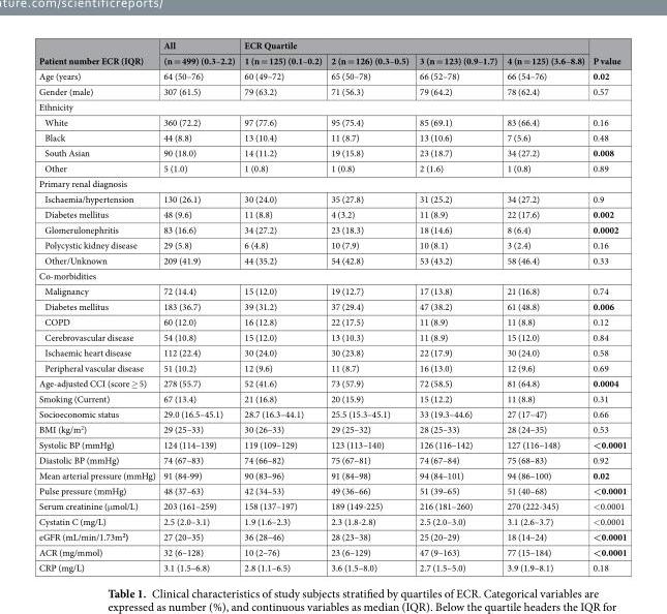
<table><thead><tr><td rowspan="2">Patient number ECR (IQR)</td><td rowspan="2">All (n = 499) (0.3–2.2)</td><td colspan="4">ECR Quartile</td><td rowspan="2">P value</td></tr><tr><td>1 (n = 125) (0.1–0.2)</td><td>2 (n = 126) (0.3–0.5)</td><td>3 (n = 123) (0.9–1.7)</td><td>4 (n = 125) (3.6–8.8)</td></tr></thead><tbody><tr><td>Age (years)</td><td>64 (50–76)</td><td>60 (49–72)</td><td>65 (50–78)</td><td>66 (52–78)</td><td>66 (54–76)</td><td>0.02</td></tr><tr><td>Gender (male)</td><td>307 (61.5)</td><td>79 (63.2)</td><td>71 (56.3)</td><td>79 (64.2)</td><td>78 (62.4)</td><td>0.57</td></tr><tr><td colspan="7">Ethnicity</td></tr><tr><td>White</td><td>360 (72.2)</td><td>97 (77.6)</td><td>95 (75.4)</td><td>85 (69.1)</td><td>83 (66.4)</td><td>0.16</td></tr><tr><td>Black</td><td>44 (8.8)</td><td>13 (10.4)</td><td>11 (8.7)</td><td>13 (10.6)</td><td>7 (5.6)</td><td>0.48</td></tr><tr><td>South Asian</td><td>90 (18.0)</td><td>14 (11.2)</td><td>19 (15.8)</td><td>23 (18.7)</td><td>34 (27.2)</td><td>0.008</td></tr><tr><td>Other</td><td>5 (1.0)</td><td>1 (0.8)</td><td>1 (0.8)</td><td>2 (1.6)</td><td>1 (0.8)</td><td>0.89</td></tr><tr><td colspan="7">Primary renal diagnosis</td></tr><tr><td>Ischaemia/hypertension</td><td>130 (26.1)</td><td>30 (24.0)</td><td>35 (27.8)</td><td>31 (25.2)</td><td>34 (27.2)</td><td>0.9</td></tr><tr><td>Diabetes mellitus</td><td>48 (9.6)</td><td>11 (8.8)</td><td>4 (3.2)</td><td>11 (8.9)</td><td>22 (17.6)</td><td>0.002</td></tr><tr><td>Glomerulonephritis</td><td>83 (16.6)</td><td>34 (27.2)</td><td>23 (18.3)</td><td>18 (14.6)</td><td>8 (6.4)</td><td>0.0002</td></tr><tr><td>Polycystic kidney disease</td><td>29 (5.8)</td><td>6 (4.8)</td><td>10 (7.9)</td><td>10 (8.1)</td><td>3 (2.4)</td><td>0.16</td></tr><tr><td>Other/Unknown</td><td>209 (41.9)</td><td>44 (35.2)</td><td>54 (42.8)</td><td>53 (43.2)</td><td>58 (46.4)</td><td>0.33</td></tr><tr><td colspan="7">Co-morbidities</td></tr><tr><td>Malignancy</td><td>72 (14.4)</td><td>15 (12.0)</td><td>19 (12.7)</td><td>17 (13.8)</td><td>21 (16.8)</td><td>0.74</td></tr><tr><td>Diabetes mellitus</td><td>183 (36.7)</td><td>39 (31.2)</td><td>37 (29.4)</td><td>47 (38.2)</td><td>61 (48.8)</td><td>0.006</td></tr><tr><td>COPD</td><td>60 (12.0)</td><td>16 (12.8)</td><td>22 (17.5)</td><td>11 (8.9)</td><td>11 (8.8)</td><td>0.12</td></tr><tr><td>Cerebrovascular disease</td><td>54 (10.8)</td><td>15 (12.0)</td><td>13 (10.3)</td><td>11 (8.9)</td><td>15 (12.0)</td><td>0.84</td></tr><tr><td>Ischaemic heart disease</td><td>112 (22.4)</td><td>30 (24.0)</td><td>30 (23.8)</td><td>22 (17.9)</td><td>30 (24.0)</td><td>0.58</td></tr><tr><td>Peripheral vascular disease</td><td>51 (10.2)</td><td>12 (9.6)</td><td>11 (8.7)</td><td>16 (13.0)</td><td>12 (9.6)</td><td>0.69</td></tr><tr><td>Age-adjusted CCI (score ≥ 5)</td><td>278 (55.7)</td><td>52 (41.6)</td><td>73 (57.9)</td><td>72 (58.5)</td><td>81 (64.8)</td><td>0.0004</td></tr><tr><td>Smoking (Current)</td><td>67 (13.4)</td><td>21 (16.8)</td><td>20 (15.9)</td><td>15 (12.2)</td><td>11 (8.8)</td><td>0.31</td></tr><tr><td>Socioeconomic status</td><td>29.0 (16.5–45.1)</td><td>28.7 (16.3–44.1)</td><td>25.5 (15.3–45.1)</td><td>33 (19.3–44.6)</td><td>27 (17–47)</td><td>0.66</td></tr><tr><td>BMI (kg/m<sup>2</sup>)</td><td>29 (25–33)</td><td>30 (26–33)</td><td>29 (25–32)</td><td>28 (25–33)</td><td>28 (24–35)</td><td>0.53</td></tr><tr><td>Systolic BP (mmHg)</td><td>124 (114–139)</td><td>119 (109–129)</td><td>123 (113–140)</td><td>126 (116–142)</td><td>127 (116–148)</td><td>&lt;0.0001</td></tr><tr><td>Diastolic BP (mmHg)</td><td>74 (67–83)</td><td>74 (66–82)</td><td>75 (67–81)</td><td>74 (67–84)</td><td>75 (68–83)</td><td>0.92</td></tr><tr><td>Mean arterial pressure (mmHg)</td><td>91 (84-99)</td><td>90 (83–96)</td><td>91 (84–98)</td><td>94 (84–101)</td><td>94 (86–100)</td><td>0.02</td></tr><tr><td>Pulse pressure (mmHg)</td><td>48 (37–63)</td><td>42 (34–53)</td><td>49 (36–66)</td><td>51 (39–65)</td><td>51 (40–68)</td><td>&lt;0.0001</td></tr><tr><td>Serum creatinine (μmol/L)</td><td>203 (161–259)</td><td>158 (137–197)</td><td>189 (149-225)</td><td>216 (181–260)</td><td>270 (222-345)</td><td>&lt;0.0001</td></tr><tr><td>Cystatin C (mg/L)</td><td>2.5 (2.0–3.1)</td><td>1.9 (1.6–2.3)</td><td>2.3 (1.8-2.8)</td><td>2.5 (2.0–3.0)</td><td>3.1 (2.6–3.7)</td><td>&lt;0.0001</td></tr><tr><td>eGFR (mL/min/1.73m<sup>2</sup>)</td><td>27 (20–35)</td><td>36 (28–46)</td><td>28 (23–38)</td><td>25 (20–29)</td><td>18 (14–24)</td><td>&lt;0.0001</td></tr><tr><td>ACR (mg/mmol)</td><td>32 (6–128)</td><td>10 (2–76)</td><td>23 (6–129)</td><td>47 (9–163)</td><td>77 (15–184)</td><td>&lt;0.0001</td></tr><tr><td>CRP (mg/L)</td><td>3.1 (1.5–6.8)</td><td>2.8 (1.1–6.5)</td><td>3.6 (1.5–8.0)</td><td>2.7 (1.5–5.0)</td><td>3.9 (1.9–8.1)</td><td>0.18</td></tr></tbody></table>